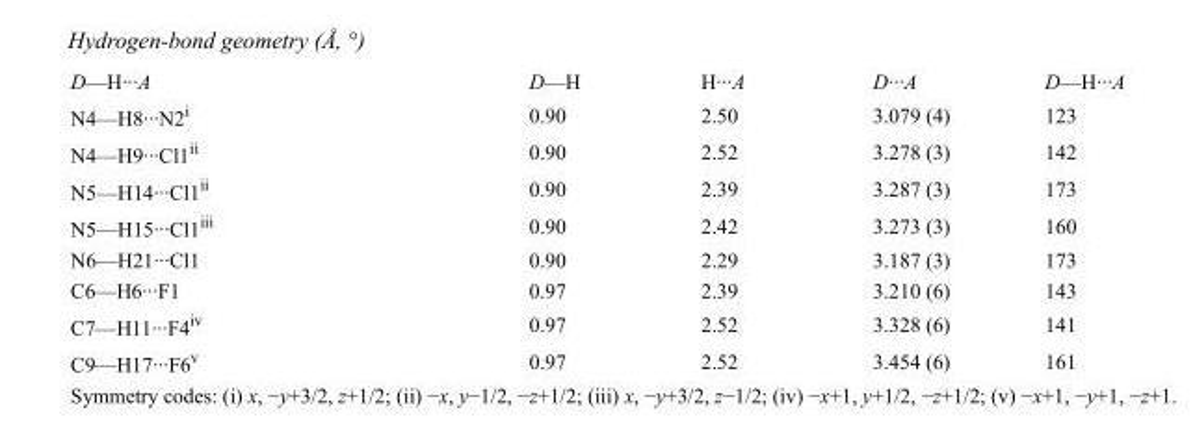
<table><tbody><tr><td>D—H···A</td><td>D—H</td><td>H···A</td><td>D···A</td><td>D—H···A</td></tr><tr><td>N4—H8···N2<sup>i</sup></td><td>0.90</td><td>2.50</td><td>3.079 (4)</td><td>123</td></tr><tr><td>N4—H9···Cl1<sup>ii</sup></td><td>0.90</td><td>2.52</td><td>3.278 (3)</td><td>142</td></tr><tr><td>N5—H14···Cl1<sup>ii</sup></td><td>0.90</td><td>2.39</td><td>3.287 (3)</td><td>173</td></tr><tr><td>N5—H15···Cl1<sup>iii</sup></td><td>0.90</td><td>2.42</td><td>3.273 (3)</td><td>160</td></tr><tr><td>N6—H21···Cl1</td><td>0.90</td><td>2.29</td><td>3.187 (3)</td><td>173</td></tr><tr><td>C6—H6···F1</td><td>0.97</td><td>2.39</td><td>3.210 (6)</td><td>143</td></tr><tr><td>C7—H11···F4<sup>iv</sup></td><td>0.97</td><td>2.52</td><td>3.328 (6)</td><td>141</td></tr><tr><td>C9—H17···F6<sup>v</sup></td><td>0.97</td><td>2.52</td><td>3.454 (6)</td><td>161</td></tr></tbody></table>